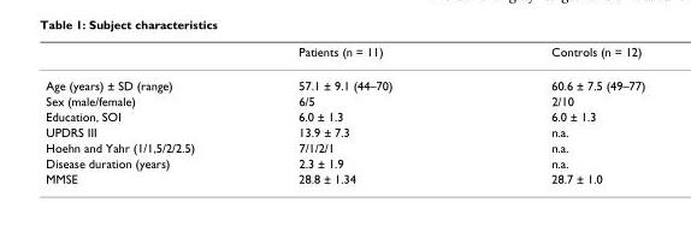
<table><thead><tr><td></td><td>Patients (n = 11)</td><td>Controls (n = 12)</td></tr></thead><tbody><tr><td>Age (years) ± SD (range)</td><td>57.1 ± 9.1 (44–70)</td><td>60.6 ± 7.5 (49–77)</td></tr><tr><td>Sex (male/female)</td><td>6/5</td><td>2/10</td></tr><tr><td>Education, SOI</td><td>6.0 ± 1.3</td><td>6.0 ± 1.3</td></tr><tr><td>UPDRS III</td><td>13.9 ± 7.3</td><td>n.a.</td></tr><tr><td>Hoehn and Yahr (1/1,5/2/2.5)</td><td>7/1/2/1</td><td>n.a.</td></tr><tr><td>Disease duration (years)</td><td>2.3 ± 1.9</td><td>n.a.</td></tr><tr><td>MMSE</td><td>28.8 ± 1.34</td><td>28.7 ± 1.0</td></tr></tbody></table>